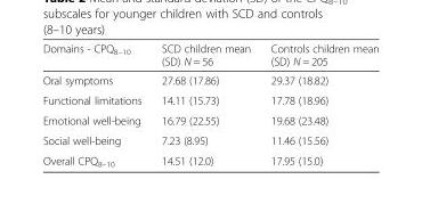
<table><thead><tr><td>Domains - CPQ<sub>8–10</sub></td><td>SCD children mean (SD) N = 56</td><td>Controls children mean (SD) N = 205</td></tr></thead><tbody><tr><td>Oral symptoms</td><td>27.68 (17.86)</td><td>29.37 (18.82)</td></tr><tr><td>Functional limitations</td><td>14.11 (15.73)</td><td>17.78 (18.96)</td></tr><tr><td>Emotional well-being</td><td>16.79 (22.55)</td><td>19.68 (23.48)</td></tr><tr><td>Social well-being</td><td>7.23 (8.95)</td><td>11.46 (15.56)</td></tr><tr><td>Overall CPQ<sub>8–10</sub></td><td>14.51 (12.0)</td><td>17.95 (15.0)</td></tr></tbody></table>